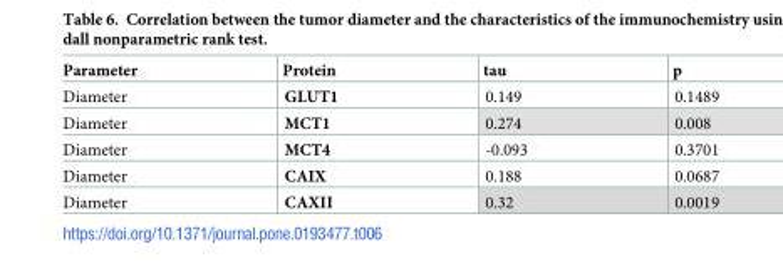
<table><thead><tr><td>Parameter</td><td>Protein</td><td>tau</td><td>p</td></tr></thead><tbody><tr><td>Diameter</td><td>GLUT1</td><td>0.149</td><td>0.1489</td></tr><tr><td>Diameter</td><td>MCT1</td><td>0.274</td><td>0.008</td></tr><tr><td>Diameter</td><td>MCT4</td><td>-0.093</td><td>0.3701</td></tr><tr><td>Diameter</td><td>CAIX</td><td>0.188</td><td>0.0687</td></tr><tr><td>Diameter</td><td>CAXII</td><td>0.32</td><td>0.0019</td></tr></tbody></table>